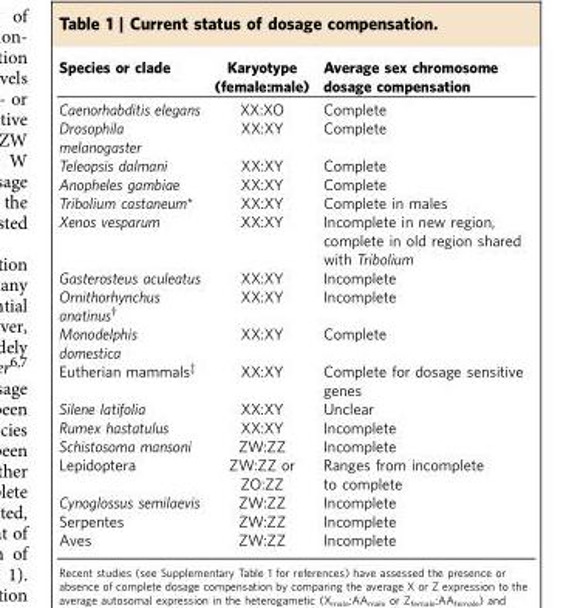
<table><thead><tr><td>Species or clade</td><td>Karyotype (female:male)</td><td>Average sex chromosome dosage compensation</td></tr></thead><tbody><tr><td>Caenorhabditis elegans</td><td>XX:XO</td><td>Complete</td></tr><tr><td>Drosophila melanogaster</td><td>XX:XY</td><td>Complete</td></tr><tr><td>Teleopsis dalmani</td><td>XX:XY</td><td>Complete</td></tr><tr><td>Anopheles gambiae</td><td>XX:XY</td><td>Complete</td></tr><tr><td>Tribolium castaneum*</td><td>XX:XY</td><td>Complete in males</td></tr><tr><td>Xenos vesparum</td><td>XX:XY</td><td>Incomplete in new region, complete in old region shared with Tribolium</td></tr><tr><td>Gasterosteus aculeatus</td><td>XX:XY</td><td>Incomplete</td></tr><tr><td>Ornithorhynchus anatinus†</td><td>XX:XY</td><td>Incomplete</td></tr><tr><td>Monodelphis domestica</td><td>XX:XY</td><td>Complete</td></tr><tr><td>Eutherian mammals‡</td><td>XX:XY</td><td>Complete for dosage sensitive genes</td></tr><tr><td>Silene latifolia</td><td>XX:XY</td><td>Unclear</td></tr><tr><td>Rumex hastatulus</td><td>XX:XY</td><td>Incomplete</td></tr><tr><td>Schistosoma mansoni</td><td>ZW:ZZ</td><td>Incomplete</td></tr><tr><td>Lepidoptera</td><td>ZW:ZZ or ZO:ZZ</td><td>Ranges from incomplete to complete</td></tr><tr><td>Cynoglossus semilaevis</td><td>ZW:ZZ</td><td>Incomplete</td></tr><tr><td>Serpentes</td><td>ZW:ZZ</td><td>Incomplete</td></tr><tr><td>Aves</td><td>ZW:ZZ</td><td>Incomplete</td></tr></tbody></table>